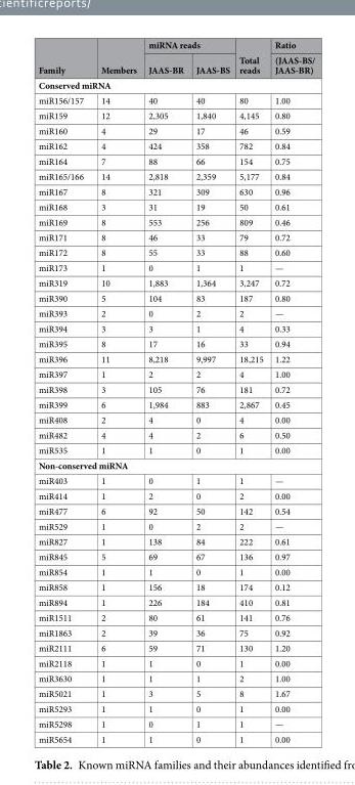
<table><thead><tr><td rowspan="2">Family</td><td rowspan="2">Members</td><td colspan="2">miRNA reads</td><td rowspan="2">Total reads</td><td rowspan="2">Ratio (JAAS-BS/ JAAS-BR)</td></tr><tr><td>JAAS-BR</td><td>JAAS-BS</td></tr></thead><tbody><tr><td colspan="6">Conserved miRNA</td></tr><tr><td>miR156/157</td><td>14</td><td>40</td><td>40</td><td>80</td><td>1.00</td></tr><tr><td>miR159</td><td>12</td><td>2,305</td><td>1,840</td><td>4,145</td><td>0.80</td></tr><tr><td>miR160</td><td>4</td><td>29</td><td>17</td><td>46</td><td>0.59</td></tr><tr><td>miR162</td><td>4</td><td>424</td><td>358</td><td>782</td><td>0.84</td></tr><tr><td>miR164</td><td>7</td><td>88</td><td>66</td><td>154</td><td>0.75</td></tr><tr><td>miR165/166</td><td>14</td><td>2,818</td><td>2,359</td><td>5,177</td><td>0.84</td></tr><tr><td>miR167</td><td>8</td><td>321</td><td>309</td><td>630</td><td>0.96</td></tr><tr><td>miR168</td><td>3</td><td>31</td><td>19</td><td>50</td><td>0.61</td></tr><tr><td>miR169</td><td>8</td><td>553</td><td>256</td><td>809</td><td>0.46</td></tr><tr><td>miR171</td><td>8</td><td>46</td><td>33</td><td>79</td><td>0.72</td></tr><tr><td>miR172</td><td>8</td><td>55</td><td>33</td><td>88</td><td>0.60</td></tr><tr><td>miR173</td><td>1</td><td>0</td><td>1</td><td>1</td><td>—</td></tr><tr><td>miR319</td><td>10</td><td>1,883</td><td>1,364</td><td>3,247</td><td>0.72</td></tr><tr><td>miR390</td><td>5</td><td>104</td><td>83</td><td>187</td><td>0.80</td></tr><tr><td>miR393</td><td>2</td><td>0</td><td>2</td><td>2</td><td>—</td></tr><tr><td>miR394</td><td>3</td><td>3</td><td>1</td><td>4</td><td>0.33</td></tr><tr><td>miR395</td><td>8</td><td>17</td><td>16</td><td>33</td><td>0.94</td></tr><tr><td>miR396</td><td>11</td><td>8,218</td><td>9,997</td><td>18,215</td><td>1.22</td></tr><tr><td>miR397</td><td>1</td><td>2</td><td>2</td><td>4</td><td>1.00</td></tr><tr><td>miR398</td><td>3</td><td>105</td><td>76</td><td>181</td><td>0.72</td></tr><tr><td>miR399</td><td>6</td><td>1,984</td><td>883</td><td>2,867</td><td>0.45</td></tr><tr><td>miR408</td><td>2</td><td>4</td><td>0</td><td>4</td><td>0.00</td></tr><tr><td>miR482</td><td>4</td><td>4</td><td>2</td><td>6</td><td>0.50</td></tr><tr><td>miR535</td><td>1</td><td>1</td><td>0</td><td>1</td><td>0.00</td></tr><tr><td colspan="6">Non-conserved miRNA</td></tr><tr><td>miR403</td><td>1</td><td>0</td><td>1</td><td>1</td><td>—</td></tr><tr><td>miR414</td><td>1</td><td>2</td><td>0</td><td>2</td><td>0.00</td></tr><tr><td>miR477</td><td>6</td><td>92</td><td>50</td><td>142</td><td>0.54</td></tr><tr><td>miR529</td><td>1</td><td>0</td><td>2</td><td>2</td><td>—</td></tr><tr><td>miR827</td><td>1</td><td>138</td><td>84</td><td>222</td><td>0.61</td></tr><tr><td>miR845</td><td>5</td><td>69</td><td>67</td><td>136</td><td>0.97</td></tr><tr><td>miR854</td><td>1</td><td>1</td><td>0</td><td>1</td><td>0.00</td></tr><tr><td>miR858</td><td>1</td><td>156</td><td>18</td><td>174</td><td>0.12</td></tr><tr><td>miR894</td><td>1</td><td>226</td><td>184</td><td>410</td><td>0.81</td></tr><tr><td>miR1511</td><td>2</td><td>80</td><td>61</td><td>141</td><td>0.76</td></tr><tr><td>miR1863</td><td>2</td><td>39</td><td>36</td><td>75</td><td>0.92</td></tr><tr><td>miR2111</td><td>6</td><td>59</td><td>71</td><td>130</td><td>1.20</td></tr><tr><td>miR2118</td><td>1</td><td>1</td><td>0</td><td>1</td><td>0.00</td></tr><tr><td>miR3630</td><td>1</td><td>1</td><td>1</td><td>2</td><td>1.00</td></tr><tr><td>miR5021</td><td>1</td><td>3</td><td>5</td><td>8</td><td>1.67</td></tr><tr><td>miR5293</td><td>1</td><td>1</td><td>0</td><td>1</td><td>0.00</td></tr><tr><td>miR5298</td><td>1</td><td>0</td><td>1</td><td>1</td><td>—</td></tr><tr><td>miR5654</td><td>1</td><td>1</td><td>0</td><td>1</td><td>0.00</td></tr></tbody></table>